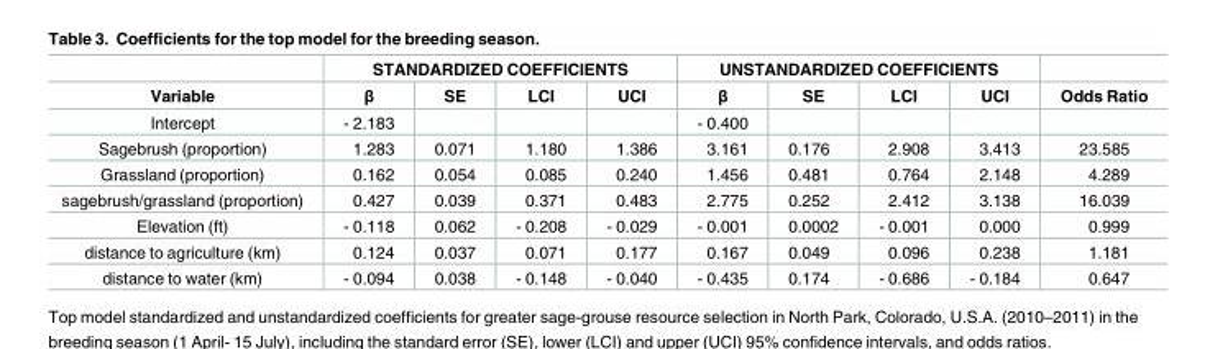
<table><thead><tr><td rowspan="2">Variable</td><td colspan="4">STANDARDIZED COEFFICIENTS</td><td colspan="4">UNSTANDARDIZED COEFFICIENTS</td><td rowspan="2">Odds Ratio</td></tr><tr><td>β</td><td>SE</td><td>LCI</td><td>UCI</td><td>β</td><td>SE</td><td>LCI</td><td>UCI</td></tr></thead><tbody><tr><td>Intercept</td><td>- 2.183</td><td></td><td></td><td></td><td>- 0.400</td><td></td><td></td><td></td><td></td></tr><tr><td>Sagebrush (proportion)</td><td>1.283</td><td>0.071</td><td>1.180</td><td>1.386</td><td>3.161</td><td>0.176</td><td>2.908</td><td>3.413</td><td>23.585</td></tr><tr><td>Grassland (proportion)</td><td>0.162</td><td>0.054</td><td>0.085</td><td>0.240</td><td>1.456</td><td>0.481</td><td>0.764</td><td>2.148</td><td>4.289</td></tr><tr><td>sagebrush/grassland (proportion)</td><td>0.427</td><td>0.039</td><td>0.371</td><td>0.483</td><td>2.775</td><td>0.252</td><td>2.412</td><td>3.138</td><td>16.039</td></tr><tr><td>Elevation (ft)</td><td>- 0.118</td><td>0.062</td><td>- 0.208</td><td>- 0.029</td><td>- 0.001</td><td>0.0002</td><td>- 0.001</td><td>0.000</td><td>0.999</td></tr><tr><td>distance to agriculture (km)</td><td>0.124</td><td>0.037</td><td>0.071</td><td>0.177</td><td>0.167</td><td>0.049</td><td>0.096</td><td>0.238</td><td>1.181</td></tr><tr><td>distance to water (km)</td><td>- 0.094</td><td>0.038</td><td>- 0.148</td><td>- 0.040</td><td>- 0.435</td><td>0.174</td><td>- 0.686</td><td>- 0.184</td><td>0.647</td></tr></tbody></table>